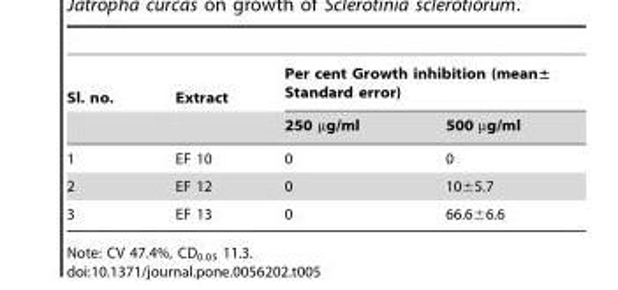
<table><thead><tr><td rowspan="2">Sl. no.</td><td rowspan="2">Extract</td><td colspan="2">Per cent Growth inhibition (mean± Standard error)</td></tr><tr><td>250 µg/ml</td><td>500 µg/ml</td></tr></thead><tbody><tr><td>1</td><td>EF 10</td><td>0</td><td>0</td></tr><tr><td>2</td><td>EF 12</td><td>0</td><td>10±5.7</td></tr><tr><td>3</td><td>EF 13</td><td>0</td><td>66.6±6.6</td></tr></tbody></table>